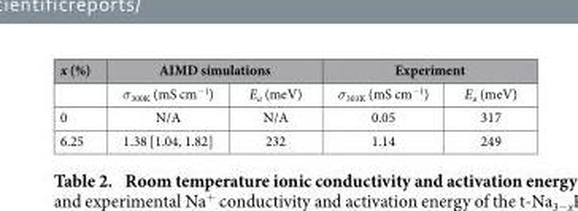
<table><thead><tr><td rowspan="2">x (%)</td><td colspan="2">AIMD simulations</td><td colspan="2">Experiment</td></tr><tr><td>σ<sub>300K</sub> (mS cm<sup>−1</sup>)</td><td>E<sub>a</sub> (meV)</td><td>σ<sub>303K</sub> (mS cm<sup>−1</sup>)</td><td>E<sub>a</sub> (meV)</td></tr></thead><tbody><tr><td>0</td><td>N/A</td><td>N/A</td><td>0.05</td><td>317</td></tr><tr><td>6.25</td><td>1.38 [1.04, 1.82]</td><td>232</td><td>1.14</td><td>249</td></tr></tbody></table>